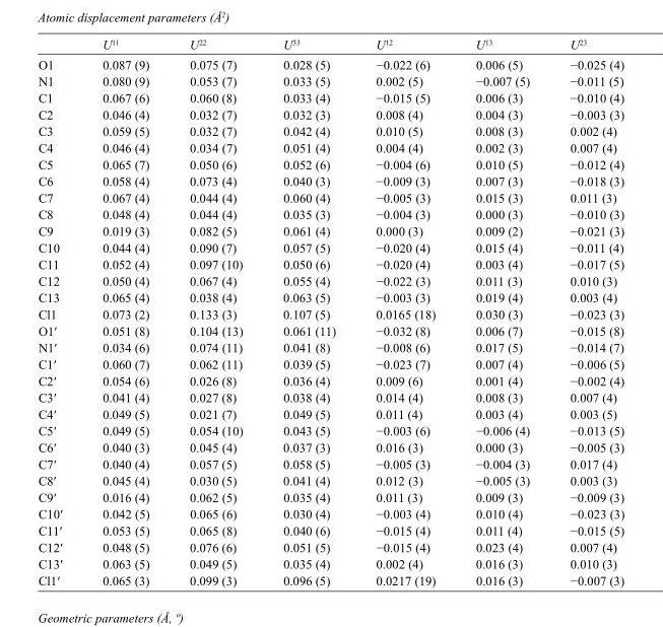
<table><thead><tr><td></td><td>U<sup>11</sup></td><td>U<sup>22</sup></td><td>U<sup>33</sup></td><td>U<sup>12</sup></td><td>U<sup>13</sup></td><td>U<sup>23</sup></td></tr></thead><tbody><tr><td>O1</td><td>0.087 (9)</td><td>0.075 (7)</td><td>0.028 (5)</td><td>−0.022 (6)</td><td>0.006 (5)</td><td>−0.025 (4)</td></tr><tr><td>N1</td><td>0.080 (9)</td><td>0.053 (7)</td><td>0.033 (5)</td><td>0.002 (5)</td><td>−0.007 (5)</td><td>−0.011 (5)</td></tr><tr><td>C1</td><td>0.067 (6)</td><td>0.060 (8)</td><td>0.033 (4)</td><td>−0.015 (5)</td><td>0.006 (3)</td><td>−0.010 (4)</td></tr><tr><td>C2</td><td>0.046 (4)</td><td>0.032 (7)</td><td>0.032 (3)</td><td>0.008 (4)</td><td>0.004 (3)</td><td>−0.003 (3)</td></tr><tr><td>C3</td><td>0.059 (5)</td><td>0.032 (7)</td><td>0.042 (4)</td><td>0.010 (5)</td><td>0.008 (3)</td><td>0.002 (4)</td></tr><tr><td>C4</td><td>0.046 (4)</td><td>0.034 (7)</td><td>0.051 (4)</td><td>0.004 (4)</td><td>0.002 (3)</td><td>0.007 (4)</td></tr><tr><td>C5</td><td>0.065 (7)</td><td>0.050 (6)</td><td>0.052 (6)</td><td>−0.004 (6)</td><td>0.010 (5)</td><td>−0.012 (4)</td></tr><tr><td>C6</td><td>0.058 (4)</td><td>0.073 (4)</td><td>0.040 (3)</td><td>−0.009 (3)</td><td>0.007 (3)</td><td>−0.018 (3)</td></tr><tr><td>C7</td><td>0.067 (4)</td><td>0.044 (4)</td><td>0.060 (4)</td><td>−0.005 (3)</td><td>0.015 (3)</td><td>0.011 (3)</td></tr><tr><td>C8</td><td>0.048 (4)</td><td>0.044 (4)</td><td>0.035 (3)</td><td>−0.004 (3)</td><td>0.000 (3)</td><td>−0.010 (3)</td></tr><tr><td>C9</td><td>0.019 (3)</td><td>0.082 (5)</td><td>0.061 (4)</td><td>0.000 (3)</td><td>0.009 (2)</td><td>−0.021 (3)</td></tr><tr><td>C10</td><td>0.044 (4)</td><td>0.090 (7)</td><td>0.057 (5)</td><td>−0.020 (4)</td><td>0.015 (4)</td><td>−0.011 (4)</td></tr><tr><td>C11</td><td>0.052 (4)</td><td>0.097 (10)</td><td>0.050 (6)</td><td>−0.020 (4)</td><td>0.003 (4)</td><td>−0.017 (5)</td></tr><tr><td>C12</td><td>0.050 (4)</td><td>0.067 (4)</td><td>0.055 (4)</td><td>−0.022 (3)</td><td>0.011 (3)</td><td>0.010 (3)</td></tr><tr><td>C13</td><td>0.065 (4)</td><td>0.038 (4)</td><td>0.063 (5)</td><td>−0.003 (3)</td><td>0.019 (4)</td><td>0.003 (4)</td></tr><tr><td>Cl1</td><td>0.073 (2)</td><td>0.133 (3)</td><td>0.107 (5)</td><td>0.0165 (18)</td><td>0.030 (3)</td><td>−0.023 (3)</td></tr><tr><td>O1′</td><td>0.051 (8)</td><td>0.104 (13)</td><td>0.061 (11)</td><td>−0.032 (8)</td><td>0.006 (7)</td><td>−0.015 (8)</td></tr><tr><td>N1′</td><td>0.034 (6)</td><td>0.074 (11)</td><td>0.041 (8)</td><td>−0.008 (6)</td><td>0.017 (5)</td><td>−0.014 (7)</td></tr><tr><td>C1′</td><td>0.060 (7)</td><td>0.062 (11)</td><td>0.039 (5)</td><td>−0.023 (7)</td><td>0.007 (4)</td><td>−0.006 (5)</td></tr><tr><td>C2′</td><td>0.054 (6)</td><td>0.026 (8)</td><td>0.036 (4)</td><td>0.009 (6)</td><td>0.001 (4)</td><td>−0.002 (4)</td></tr><tr><td>C3′</td><td>0.041 (4)</td><td>0.027 (8)</td><td>0.038 (4)</td><td>0.014 (4)</td><td>0.008 (3)</td><td>0.007 (4)</td></tr><tr><td>C4′</td><td>0.049 (5)</td><td>0.021 (7)</td><td>0.049 (5)</td><td>0.011 (4)</td><td>0.003 (4)</td><td>0.003 (5)</td></tr><tr><td>C5′</td><td>0.049 (5)</td><td>0.054 (10)</td><td>0.043 (5)</td><td>−0.003 (6)</td><td>−0.006 (4)</td><td>−0.013 (5)</td></tr><tr><td>C6′</td><td>0.040 (3)</td><td>0.045 (4)</td><td>0.037 (3)</td><td>0.016 (3)</td><td>0.000 (3)</td><td>−0.005 (3)</td></tr><tr><td>C7′</td><td>0.040 (4)</td><td>0.057 (5)</td><td>0.058 (5)</td><td>−0.005 (3)</td><td>−0.004 (3)</td><td>0.017 (4)</td></tr><tr><td>C8′</td><td>0.045 (4)</td><td>0.030 (5)</td><td>0.041 (4)</td><td>0.012 (3)</td><td>−0.005 (3)</td><td>0.003 (3)</td></tr><tr><td>C9′</td><td>0.016 (4)</td><td>0.062 (5)</td><td>0.035 (4)</td><td>0.011 (3)</td><td>0.009 (3)</td><td>−0.009 (3)</td></tr><tr><td>C10′</td><td>0.042 (5)</td><td>0.065 (6)</td><td>0.030 (4)</td><td>−0.003 (4)</td><td>0.010 (4)</td><td>−0.023 (3)</td></tr><tr><td>C11′</td><td>0.053 (5)</td><td>0.065 (8)</td><td>0.040 (6)</td><td>−0.015 (4)</td><td>0.011 (4)</td><td>−0.015 (5)</td></tr><tr><td>C12′</td><td>0.048 (5)</td><td>0.076 (6)</td><td>0.051 (5)</td><td>−0.015 (4)</td><td>0.023 (4)</td><td>0.007 (4)</td></tr><tr><td>C13′</td><td>0.063 (5)</td><td>0.049 (5)</td><td>0.035 (4)</td><td>0.002 (4)</td><td>0.016 (3)</td><td>0.010 (3)</td></tr><tr><td>Cl1′</td><td>0.065 (3)</td><td>0.099 (3)</td><td>0.096 (5)</td><td>0.0217 (19)</td><td>0.016 (3)</td><td>−0.007 (3)</td></tr></tbody></table>